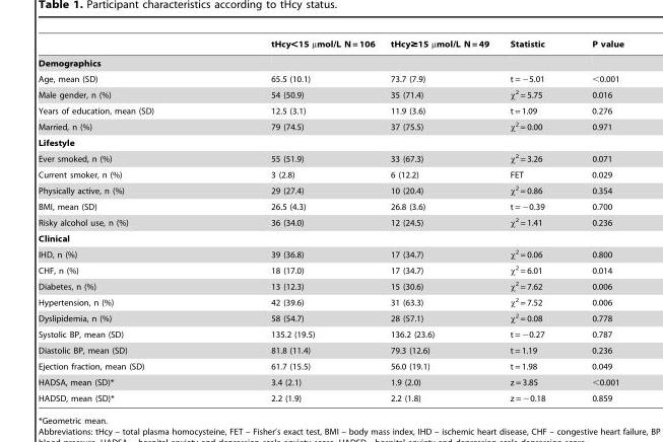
<table><thead><tr><td></td><td>tHcy&lt;15 µmol/L N = 106</td><td>tHcy≥15 µmol/L N = 49</td><td>Statistic</td><td>P value</td></tr></thead><tbody><tr><td colspan="5">Demographics</td></tr><tr><td>Age, mean (SD)</td><td>65.5 (10.1)</td><td>73.7 (7.9)</td><td>t = −5.01</td><td>&lt;0.001</td></tr><tr><td>Male gender, n (%)</td><td>54 (50.9)</td><td>35 (71.4)</td><td>χ<sup>2</sup> = 5.75</td><td>0.016</td></tr><tr><td>Years of education, mean (SD)</td><td>12.5 (3.1)</td><td>11.9 (3.6)</td><td>t = 1.09</td><td>0.276</td></tr><tr><td>Married, n (%)</td><td>79 (74.5)</td><td>37 (75.5)</td><td>χ<sup>2</sup> = 0.00</td><td>0.971</td></tr><tr><td colspan="5">Lifestyle</td></tr><tr><td>Ever smoked, n (%)</td><td>55 (51.9)</td><td>33 (67.3)</td><td>χ<sup>2</sup> = 3.26</td><td>0.071</td></tr><tr><td>Current smoker, n (%)</td><td>3 (2.8)</td><td>6 (12.2)</td><td>FET</td><td>0.029</td></tr><tr><td>Physically active, n (%)</td><td>29 (27.4)</td><td>10 (20.4)</td><td>χ<sup>2</sup> = 0.86</td><td>0.354</td></tr><tr><td>BMI, mean (SD)</td><td>26.5 (4.3)</td><td>26.8 (3.6)</td><td>t = −0.39</td><td>0.700</td></tr><tr><td>Risky alcohol use, n (%)</td><td>36 (34.0)</td><td>12 (24.5)</td><td>χ<sup>2</sup> = 1.41</td><td>0.236</td></tr><tr><td colspan="5">Clinical</td></tr><tr><td>IHD, n (%)</td><td>39 (36.8)</td><td>17 (34.7)</td><td>χ<sup>2</sup> = 0.06</td><td>0.800</td></tr><tr><td>CHF, n (%)</td><td>18 (17.0)</td><td>17 (34.7)</td><td>χ<sup>2</sup> = 6.01</td><td>0.014</td></tr><tr><td>Diabetes, n (%)</td><td>13 (12.3)</td><td>15 (30.6)</td><td>χ<sup>2</sup> = 7.62</td><td>0.006</td></tr><tr><td>Hypertension, n (%)</td><td>42 (39.6)</td><td>31 (63.3)</td><td>χ<sup>2</sup> = 7.52</td><td>0.006</td></tr><tr><td>Dyslipidemia, n (%)</td><td>58 (54.7)</td><td>28 (57.1)</td><td>χ<sup>2</sup> = 0.08</td><td>0.778</td></tr><tr><td>Systolic BP, mean (SD)</td><td>135.2 (19.5)</td><td>136.2 (23.6)</td><td>t = −0.27</td><td>0.787</td></tr><tr><td>Diastolic BP, mean (SD)</td><td>81.8 (11.4)</td><td>79.3 (12.6)</td><td>t = 1.19</td><td>0.236</td></tr><tr><td>Ejection fraction, mean (SD)</td><td>61.7 (15.5)</td><td>56.0 (19.1)</td><td>t = 1.98</td><td>0.049</td></tr><tr><td>HADSA, mean (SD)*</td><td>3.4 (2.1)</td><td>1.9 (2.0)</td><td>z = 3.85</td><td>&lt;0.001</td></tr><tr><td>HADSD, mean (SD)*</td><td>2.2 (1.9)</td><td>2.2 (1.8)</td><td>z = −0.18</td><td>0.859</td></tr></tbody></table>